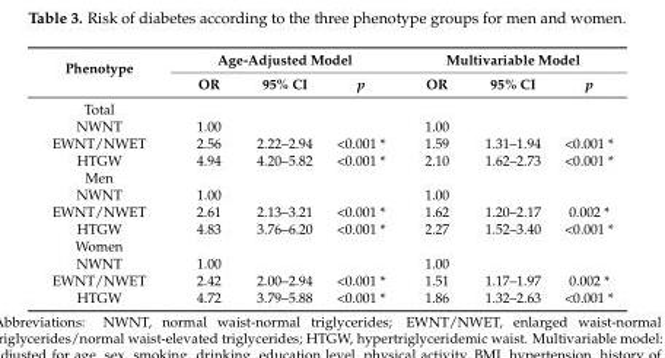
<table><thead><tr><td rowspan="2">Phenotype</td><td colspan="3">Age-Adjusted Model</td><td colspan="3">Multivariable Model</td></tr><tr><td>OR</td><td>95% CI</td><td>p</td><td>OR</td><td>95% CI</td><td>p</td></tr></thead><tbody><tr><td colspan="7">Total</td></tr><tr><td>NWNT</td><td>1.00</td><td></td><td></td><td>1.00</td><td></td><td></td></tr><tr><td>EWNT/NWET</td><td>2.56</td><td>2.22–2.94</td><td>&lt;0.001 *</td><td>1.59</td><td>1.31–1.94</td><td>&lt;0.001 *</td></tr><tr><td>HTGW</td><td>4.94</td><td>4.20–5.82</td><td>&lt;0.001 *</td><td>2.10</td><td>1.62–2.73</td><td>&lt;0.001 *</td></tr><tr><td colspan="7">Men</td></tr><tr><td>NWNT</td><td>1.00</td><td></td><td></td><td>1.00</td><td></td><td></td></tr><tr><td>EWNT/NWET</td><td>2.61</td><td>2.13–3.21</td><td>&lt;0.001 *</td><td>1.62</td><td>1.20–2.17</td><td>0.002 *</td></tr><tr><td>HTGW</td><td>4.83</td><td>3.76–6.20</td><td>&lt;0.001 *</td><td>2.27</td><td>1.52–3.40</td><td>&lt;0.001 *</td></tr><tr><td colspan="7">Women</td></tr><tr><td>NWNT</td><td>1.00</td><td></td><td></td><td>1.00</td><td></td><td></td></tr><tr><td>EWNT/NWET</td><td>2.42</td><td>2.00–2.94</td><td>&lt;0.001 *</td><td>1.51</td><td>1.17–1.97</td><td>0.002 *</td></tr><tr><td>HTGW</td><td>4.72</td><td>3.79–5.88</td><td>&lt;0.001 *</td><td>1.86</td><td>1.32–2.63</td><td>&lt;0.001 *</td></tr></tbody></table>